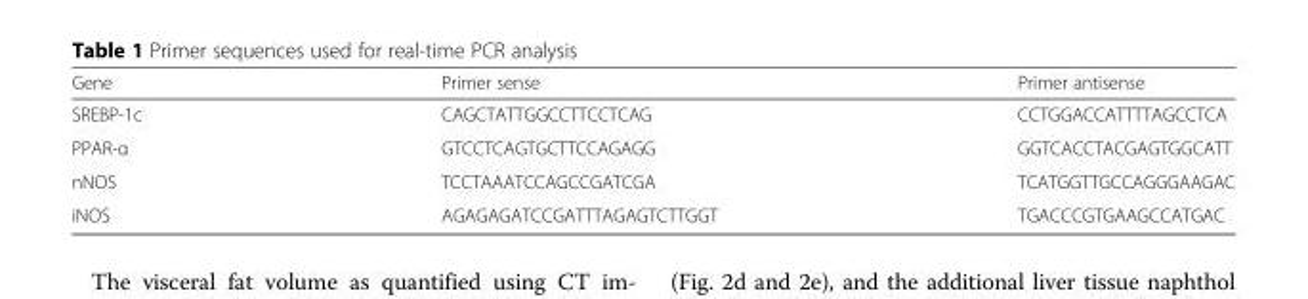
<table><thead><tr><td>Gene</td><td>Primer sense</td><td>Primer antisense</td></tr></thead><tbody><tr><td>SREBP-1c</td><td>CAGCTATTGGCCTTCCTCAG</td><td>CCTGGACCATTTTAGCCTCA</td></tr><tr><td>PPAR-α</td><td>GTCCTCAGTGCTTCCAGAGG</td><td>GGTCACCTACGAGTGGCATT</td></tr><tr><td>nNOS</td><td>TCCTAAATCCAGCCGATCGA</td><td>TCATGGTTGCCAGGGAAGAC</td></tr><tr><td>iNOS</td><td>AGAGAGATCCGATTTAGAGTCTTGGT</td><td>TGACCCGTGAAGCCATGAC</td></tr></tbody></table>